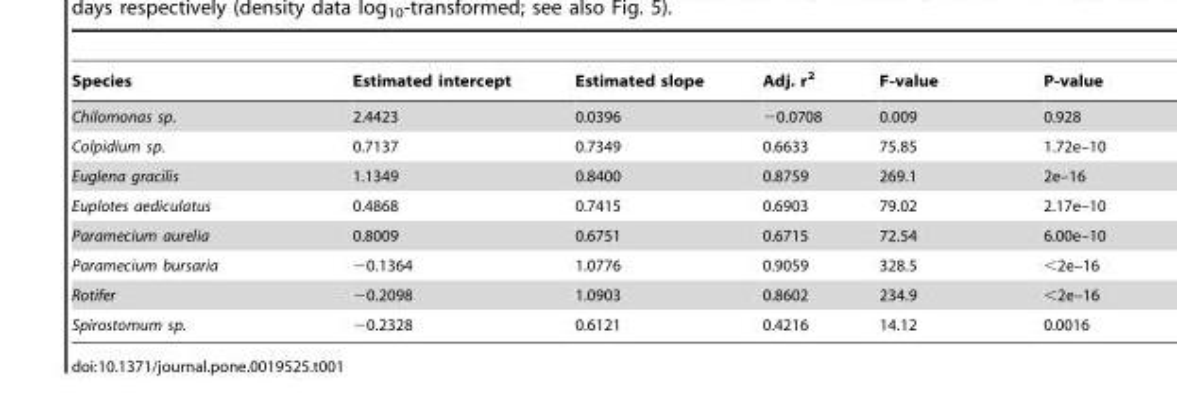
<table><thead><tr><td>Species</td><td>Estimated intercept</td><td>Estimated slope</td><td>Adj. r<sup>2</sup></td><td>F-value</td><td>P-value</td></tr></thead><tbody><tr><td>Chilomonas sp.</td><td>2.4423</td><td>0.0396</td><td>−0.0708</td><td>0.009</td><td>0.928</td></tr><tr><td>Colpidium sp.</td><td>0.7137</td><td>0.7349</td><td>0.6633</td><td>75.85</td><td>1.72e–10</td></tr><tr><td>Euglena gracilis</td><td>1.1349</td><td>0.8400</td><td>0.8759</td><td>269.1</td><td>2e–16</td></tr><tr><td>Euplotes aediculatus</td><td>0.4868</td><td>0.7415</td><td>0.6903</td><td>79.02</td><td>2.17e–10</td></tr><tr><td>Paramecium aurelia</td><td>0.8009</td><td>0.6751</td><td>0.6715</td><td>72.54</td><td>6.00e–10</td></tr><tr><td>Paramecium bursaria</td><td>−0.1364</td><td>1.0776</td><td>0.9059</td><td>328.5</td><td>&lt;2e–16</td></tr><tr><td>Rotifer</td><td>−0.2098</td><td>1.0903</td><td>0.8602</td><td>234.9</td><td>&lt;2e–16</td></tr><tr><td>Spirostomum sp.</td><td>−0.2328</td><td>0.6121</td><td>0.4216</td><td>14.12</td><td>0.0016</td></tr></tbody></table>